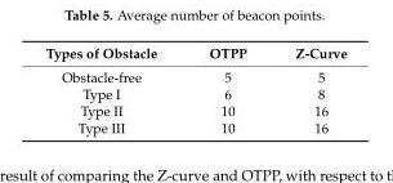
<table><thead><tr><td>Types of Obstacle</td><td>OTPP</td><td>Z-Curve</td></tr></thead><tbody><tr><td>Obstacle-free</td><td>5</td><td>5</td></tr><tr><td>Type I</td><td>6</td><td>8</td></tr><tr><td>Type II</td><td>10</td><td>16</td></tr><tr><td>Type III</td><td>10</td><td>16</td></tr></tbody></table>